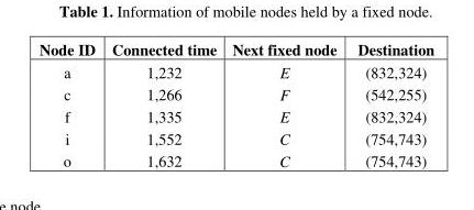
<table><thead><tr><td>Node ID</td><td>Connected time</td><td>Next fixed node</td><td>Destination</td></tr></thead><tbody><tr><td>a</td><td>1,232</td><td>E</td><td>(832,324)</td></tr><tr><td>c</td><td>1,266</td><td>F</td><td>(542,255)</td></tr><tr><td>f</td><td>1,335</td><td>E</td><td>(832,324)</td></tr><tr><td>i</td><td>1,552</td><td>C</td><td>(754,743)</td></tr><tr><td>o</td><td>1,632</td><td>C</td><td>(754,743)</td></tr></tbody></table>